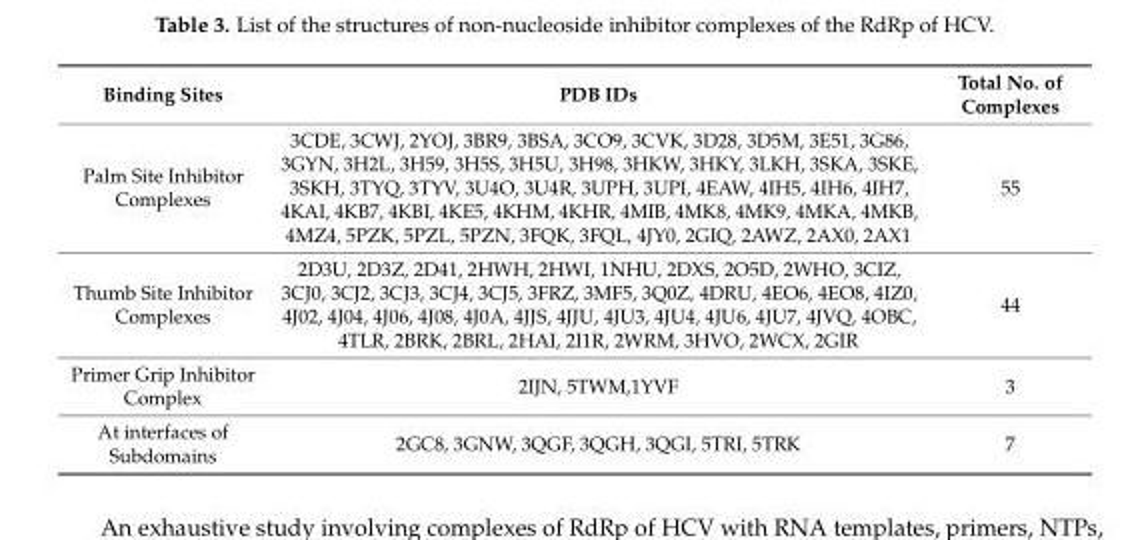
<table><thead><tr><td>Binding Sites</td><td>PDB IDs</td><td>Total No. of Complexes</td></tr></thead><tbody><tr><td>Palm Site Inhibitor Complexes</td><td>3CDE, 3CWJ, 2YOJ, 3BR9, 3BSA, 3CO9, 3CVK, 3D28, 3D5M, 3E51, 3G86, 3GYN, 3H2L, 3H59, 3H5S, 3H5U, 3H98, 3HKW, 3HKY, 3LKH, 3SKA, 3SKE, 3SKH, 3TYQ, 3TYV, 3U4O, 3U4R, 3UPH, 3UPI, 4EAW, 4IH5, 4IH6, 4IH7, 4KAI, 4KB7, 4KBI, 4KE5, 4KHM, 4KHR, 4MIB, 4MK8, 4MK9, 4MKA, 4MKB, 4MZ4, 5PZK, 5PZL, 5PZN, 3FQK, 3FQL, 4JY0, 2GIQ, 2AWZ, 2AX0, 2AX1</td><td>55</td></tr><tr><td>Thumb Site Inhibitor Complexes</td><td>2D3U, 2D3Z, 2D41, 2HWH, 2HWI, 1NHU, 2DXS, 2O5D, 2WHO, 3CIZ, 3CJ0, 3CJ2, 3CJ3, 3CJ4, 3CJ5, 3FRZ, 3MF5, 3Q0Z, 4DRU, 4EO6, 4EO8, 4IZ0, 4J02, 4J04, 4J06, 4J08, 4J0A, 4JJS, 4JJU, 4JU3, 4JU4, 4JU6, 4JU7, 4JVQ, 4OBC, 4TLR, 2BRK, 2BRL, 2HAI, 2I1R, 2WRM, 3HVO, 2WCX, 2GIR</td><td>44</td></tr><tr><td>Primer Grip Inhibitor Complex</td><td>2IJN, 5TWM,1YVF</td><td>3</td></tr><tr><td>At interfaces of Subdomains</td><td>2GC8, 3GNW, 3QGF, 3QGH, 3QGI, 5TRI, 5TRK</td><td>7</td></tr></tbody></table>